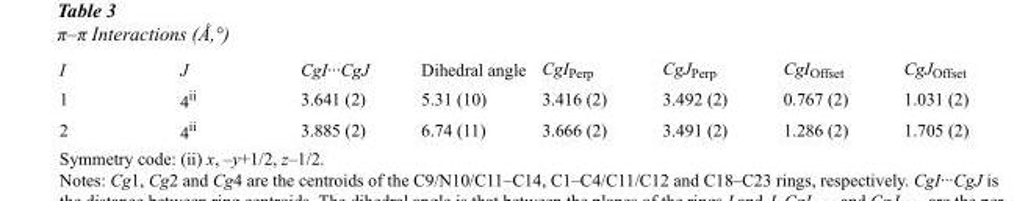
<table><thead><tr><td>I</td><td>J</td><td>CgI···CgJ</td><td>Dihedral angle</td><td>CgI<sub>Perp</sub></td><td>CgJ<sub>Perp</sub></td><td>CgI<sub>Offset</sub></td><td>CgJ<sub>Offset</sub></td></tr></thead><tbody><tr><td>1</td><td>4<sup>ii</sup></td><td>3.641 (2)</td><td>5.31 (10)</td><td>3.416 (2)</td><td>3.492 (2)</td><td>0.767 (2)</td><td>1.031 (2)</td></tr><tr><td>2</td><td>4<sup>ii</sup></td><td>3.885 (2)</td><td>6.74 (11)</td><td>3.666 (2)</td><td>3.491 (2)</td><td>1.286 (2)</td><td>1.705 (2)</td></tr></tbody></table>